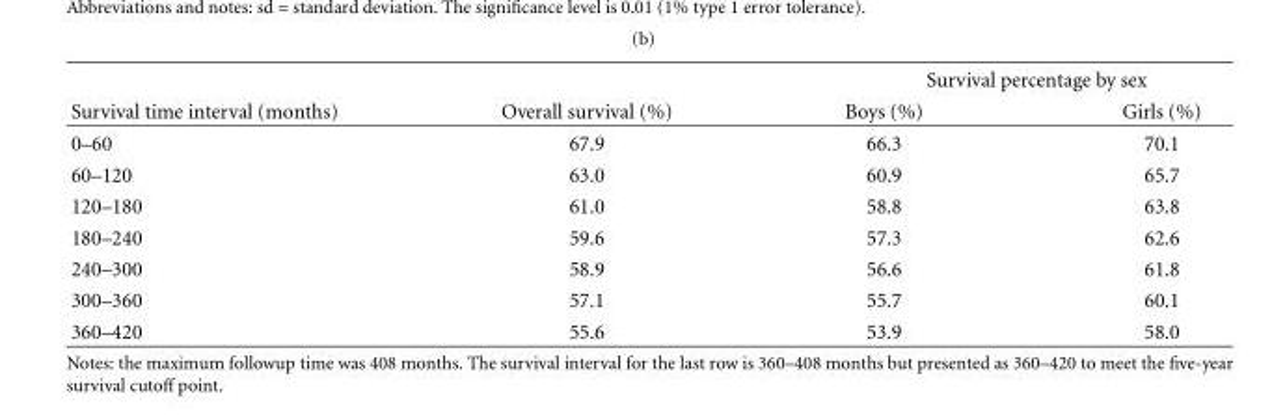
<table><thead><tr><td rowspan="2">Survival time interval (months)</td><td rowspan="2">Overall survival (%)</td><td colspan="2">Survival percentage by sex</td></tr><tr><td>Boys (%)</td><td>Girls (%)</td></tr></thead><tbody><tr><td>0–60</td><td>67.9</td><td>66.3</td><td>70.1</td></tr><tr><td>60–120</td><td>63.0</td><td>60.9</td><td>65.7</td></tr><tr><td>120–180</td><td>61.0</td><td>58.8</td><td>63.8</td></tr><tr><td>180–240</td><td>59.6</td><td>57.3</td><td>62.6</td></tr><tr><td>240–300</td><td>58.9</td><td>56.6</td><td>61.8</td></tr><tr><td>300–360</td><td>57.1</td><td>55.7</td><td>60.1</td></tr><tr><td>360–420</td><td>55.6</td><td>53.9</td><td>58.0</td></tr></tbody></table>